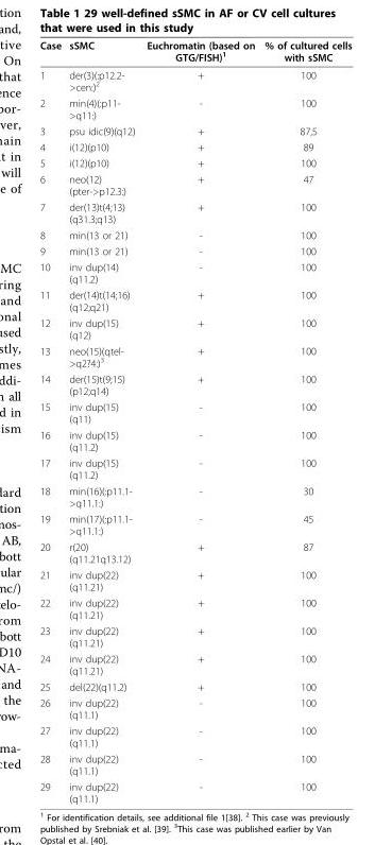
<table><thead><tr><td>Case</td><td>sSMC</td><td>Euchromatin (based on GTG/FISH)<sup>1</sup></td><td>% of cultured cells with sSMC</td></tr></thead><tbody><tr><td>1</td><td>der(3)(:p12.2- &gt;cen:)<sup>2</sup></td><td>+</td><td>100</td></tr><tr><td>2</td><td>min(4)(:p11- &gt;q11:)</td><td>-</td><td>100</td></tr><tr><td>3</td><td>psu idic(9)(q12)</td><td>+</td><td>87,5</td></tr><tr><td>4</td><td>i(12)(p10)</td><td>+</td><td>89</td></tr><tr><td>5</td><td>i(12)(p10)</td><td>+</td><td>100</td></tr><tr><td>6</td><td>neo(12) (pter-&gt;p12.3:)</td><td>+</td><td>47</td></tr><tr><td>7</td><td>der(13)t(4;13) (q31.3;q13)</td><td>+</td><td>100</td></tr><tr><td>8</td><td>min(13 or 21)</td><td>-</td><td>100</td></tr><tr><td>9</td><td>min(13 or 21)</td><td>-</td><td>100</td></tr><tr><td>10</td><td>inv dup(14) (q11.2)</td><td>-</td><td>100</td></tr><tr><td>11</td><td>der(14)t(14;16) (q12;q21)</td><td>+</td><td>100</td></tr><tr><td>12</td><td>inv dup(15) (q12)</td><td>+</td><td>100</td></tr><tr><td>13</td><td>neo(15)(qtel- &gt;q2?4:)<sup>3</sup></td><td>+</td><td>100</td></tr><tr><td>14</td><td>der(15)t(9;15) (p12;q14)</td><td>+</td><td>100</td></tr><tr><td>15</td><td>inv dup(15) (q11)</td><td>-</td><td>100</td></tr><tr><td>16</td><td>inv dup(15) (q11.2)</td><td>-</td><td>100</td></tr><tr><td>17</td><td>inv dup(15) (q11.2)</td><td>-</td><td>100</td></tr><tr><td>18</td><td>min(16)(:p11.1- &gt;q11.1:)</td><td>-</td><td>30</td></tr><tr><td>19</td><td>min(17)(:p11.1- &gt;q11.1:)</td><td>-</td><td>45</td></tr><tr><td>20</td><td>r(20) (q11.21q13.12)</td><td>+</td><td>87</td></tr><tr><td>21</td><td>inv dup(22) (q11.21)</td><td>+</td><td>100</td></tr><tr><td>22</td><td>inv dup(22) (q11.21)</td><td>+</td><td>100</td></tr><tr><td>23</td><td>inv dup(22) (q11.21)</td><td>+</td><td>100</td></tr><tr><td>24</td><td>inv dup(22) (q11.21)</td><td>+</td><td>100</td></tr><tr><td>25</td><td>del(22)(q11.2)</td><td>+</td><td>100</td></tr><tr><td>26</td><td>inv dup(22) (q11.1)</td><td>-</td><td>100</td></tr><tr><td>27</td><td>inv dup(22) (q11.1)</td><td>-</td><td>100</td></tr><tr><td>28</td><td>inv dup(22) (q11.1)</td><td>-</td><td>100</td></tr><tr><td>29</td><td>inv dup(22) (q11.1)</td><td>-</td><td>100</td></tr></tbody></table>